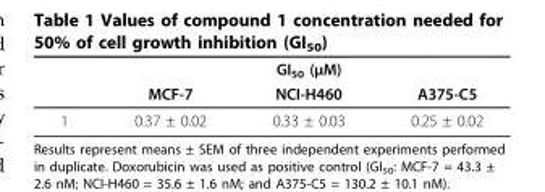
<table><thead><tr><td rowspan="2"></td><td colspan="3">GI<sub>50</sub> (μM)</td></tr><tr><td>MCF-7</td><td>NCI-H460</td><td>A375-C5</td></tr></thead><tbody><tr><td>1</td><td>0.37 ± 0.02</td><td>0.33 ± 0.03</td><td>0.25 ± 0.02</td></tr></tbody></table>